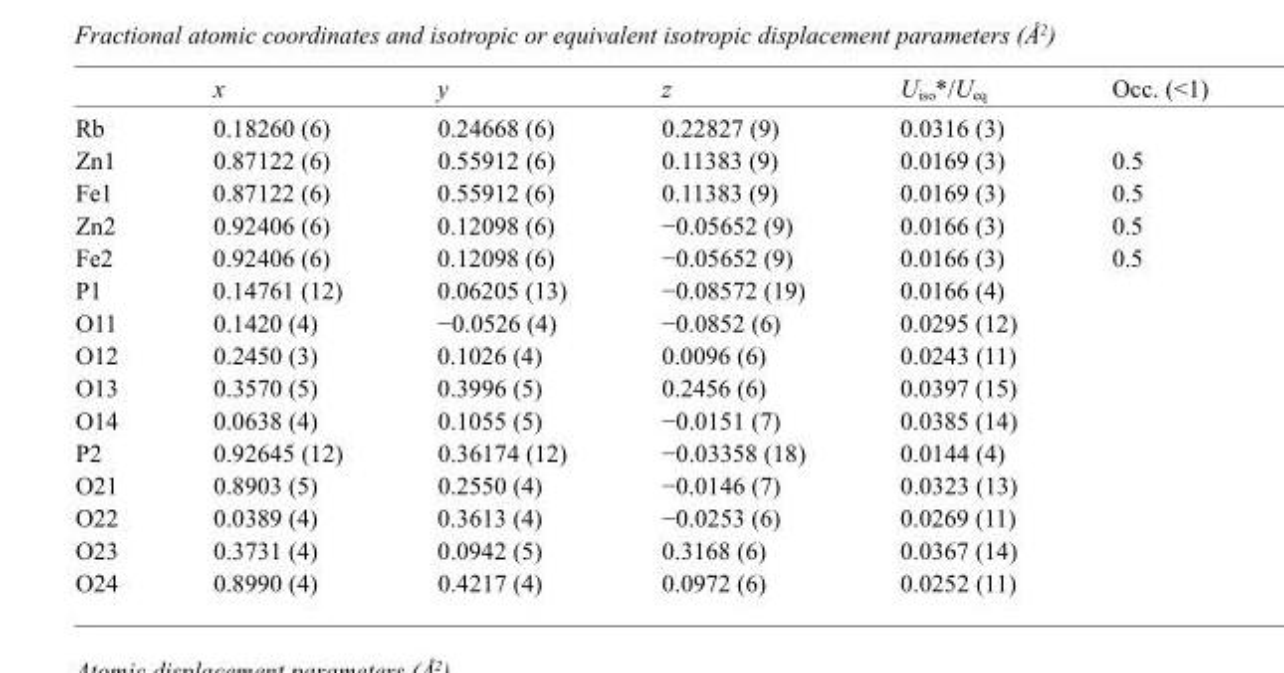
<table><thead><tr><td></td><td>x</td><td>y</td><td>z</td><td>U<sub>iso</sub>*/U<sub>eq</sub></td><td>Occ. (&lt;1)</td></tr></thead><tbody><tr><td>Rb</td><td>0.18260 (6)</td><td>0.24668 (6)</td><td>0.22827 (9)</td><td>0.0316 (3)</td><td></td></tr><tr><td>Zn1</td><td>0.87122 (6)</td><td>0.55912 (6)</td><td>0.11383 (9)</td><td>0.0169 (3)</td><td>0.5</td></tr><tr><td>Fe1</td><td>0.87122 (6)</td><td>0.55912 (6)</td><td>0.11383 (9)</td><td>0.0169 (3)</td><td>0.5</td></tr><tr><td>Zn2</td><td>0.92406 (6)</td><td>0.12098 (6)</td><td>−0.05652 (9)</td><td>0.0166 (3)</td><td>0.5</td></tr><tr><td>Fe2</td><td>0.92406 (6)</td><td>0.12098 (6)</td><td>−0.05652 (9)</td><td>0.0166 (3)</td><td>0.5</td></tr><tr><td>P1</td><td>0.14761 (12)</td><td>0.06205 (13)</td><td>−0.08572 (19)</td><td>0.0166 (4)</td><td></td></tr><tr><td>O11</td><td>0.1420 (4)</td><td>−0.0526 (4)</td><td>−0.0852 (6)</td><td>0.0295 (12)</td><td></td></tr><tr><td>O12</td><td>0.2450 (3)</td><td>0.1026 (4)</td><td>0.0096 (6)</td><td>0.0243 (11)</td><td></td></tr><tr><td>O13</td><td>0.3570 (5)</td><td>0.3996 (5)</td><td>0.2456 (6)</td><td>0.0397 (15)</td><td></td></tr><tr><td>O14</td><td>0.0638 (4)</td><td>0.1055 (5)</td><td>−0.0151 (7)</td><td>0.0385 (14)</td><td></td></tr><tr><td>P2</td><td>0.92645 (12)</td><td>0.36174 (12)</td><td>−0.03358 (18)</td><td>0.0144 (4)</td><td></td></tr><tr><td>O21</td><td>0.8903 (5)</td><td>0.2550 (4)</td><td>−0.0146 (7)</td><td>0.0323 (13)</td><td></td></tr><tr><td>O22</td><td>0.0389 (4)</td><td>0.3613 (4)</td><td>−0.0253 (6)</td><td>0.0269 (11)</td><td></td></tr><tr><td>O23</td><td>0.3731 (4)</td><td>0.0942 (5)</td><td>0.3168 (6)</td><td>0.0367 (14)</td><td></td></tr><tr><td>O24</td><td>0.8990 (4)</td><td>0.4217 (4)</td><td>0.0972 (6)</td><td>0.0252 (11)</td><td></td></tr></tbody></table>